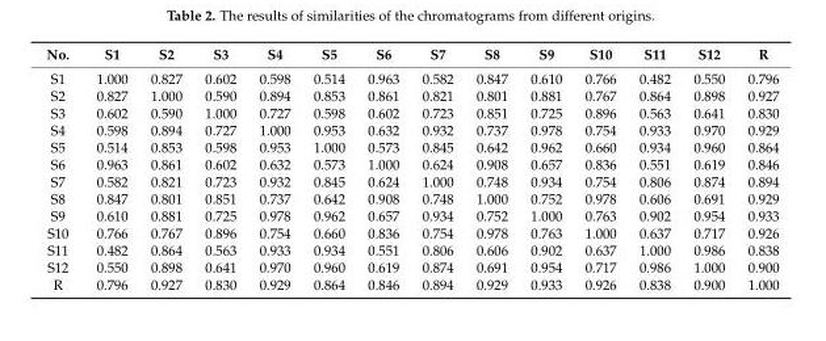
<table><thead><tr><td>No.</td><td>S1</td><td>S2</td><td>S3</td><td>S4</td><td>S5</td><td>S6</td><td>S7</td><td>S8</td><td>S9</td><td>S10</td><td>S11</td><td>S12</td><td>R</td></tr></thead><tbody><tr><td>S1</td><td>1.000</td><td>0.827</td><td>0.602</td><td>0.598</td><td>0.514</td><td>0.963</td><td>0.582</td><td>0.847</td><td>0.610</td><td>0.766</td><td>0.482</td><td>0.550</td><td>0.796</td></tr><tr><td>S2</td><td>0.827</td><td>1.000</td><td>0.590</td><td>0.894</td><td>0.853</td><td>0.861</td><td>0.821</td><td>0.801</td><td>0.881</td><td>0.767</td><td>0.864</td><td>0.898</td><td>0.927</td></tr><tr><td>S3</td><td>0.602</td><td>0.590</td><td>1.000</td><td>0.727</td><td>0.598</td><td>0.602</td><td>0.723</td><td>0.851</td><td>0.725</td><td>0.896</td><td>0.563</td><td>0.641</td><td>0.830</td></tr><tr><td>S4</td><td>0.598</td><td>0.894</td><td>0.727</td><td>1.000</td><td>0.953</td><td>0.632</td><td>0.932</td><td>0.737</td><td>0.978</td><td>0.754</td><td>0.933</td><td>0.970</td><td>0.929</td></tr><tr><td>S5</td><td>0.514</td><td>0.853</td><td>0.598</td><td>0.953</td><td>1.000</td><td>0.573</td><td>0.845</td><td>0.642</td><td>0.962</td><td>0.660</td><td>0.934</td><td>0.960</td><td>0.864</td></tr><tr><td>S6</td><td>0.963</td><td>0.861</td><td>0.602</td><td>0.632</td><td>0.573</td><td>1.000</td><td>0.624</td><td>0.908</td><td>0.657</td><td>0.836</td><td>0.551</td><td>0.619</td><td>0.846</td></tr><tr><td>S7</td><td>0.582</td><td>0.821</td><td>0.723</td><td>0.932</td><td>0.845</td><td>0.624</td><td>1.000</td><td>0.748</td><td>0.934</td><td>0.754</td><td>0.806</td><td>0.874</td><td>0.894</td></tr><tr><td>S8</td><td>0.847</td><td>0.801</td><td>0.851</td><td>0.737</td><td>0.642</td><td>0.908</td><td>0.748</td><td>1.000</td><td>0.752</td><td>0.978</td><td>0.606</td><td>0.691</td><td>0.929</td></tr><tr><td>S9</td><td>0.610</td><td>0.881</td><td>0.725</td><td>0.978</td><td>0.962</td><td>0.657</td><td>0.934</td><td>0.752</td><td>1.000</td><td>0.763</td><td>0.902</td><td>0.954</td><td>0.933</td></tr><tr><td>S10</td><td>0.766</td><td>0.767</td><td>0.896</td><td>0.754</td><td>0.660</td><td>0.836</td><td>0.754</td><td>0.978</td><td>0.763</td><td>1.000</td><td>0.637</td><td>0.717</td><td>0.926</td></tr><tr><td>S11</td><td>0.482</td><td>0.864</td><td>0.563</td><td>0.933</td><td>0.934</td><td>0.551</td><td>0.806</td><td>0.606</td><td>0.902</td><td>0.637</td><td>1.000</td><td>0.986</td><td>0.838</td></tr><tr><td>S12</td><td>0.550</td><td>0.898</td><td>0.641</td><td>0.970</td><td>0.960</td><td>0.619</td><td>0.874</td><td>0.691</td><td>0.954</td><td>0.717</td><td>0.986</td><td>1.000</td><td>0.900</td></tr><tr><td>R</td><td>0.796</td><td>0.927</td><td>0.830</td><td>0.929</td><td>0.864</td><td>0.846</td><td>0.894</td><td>0.929</td><td>0.933</td><td>0.926</td><td>0.838</td><td>0.900</td><td>1.000</td></tr></tbody></table>